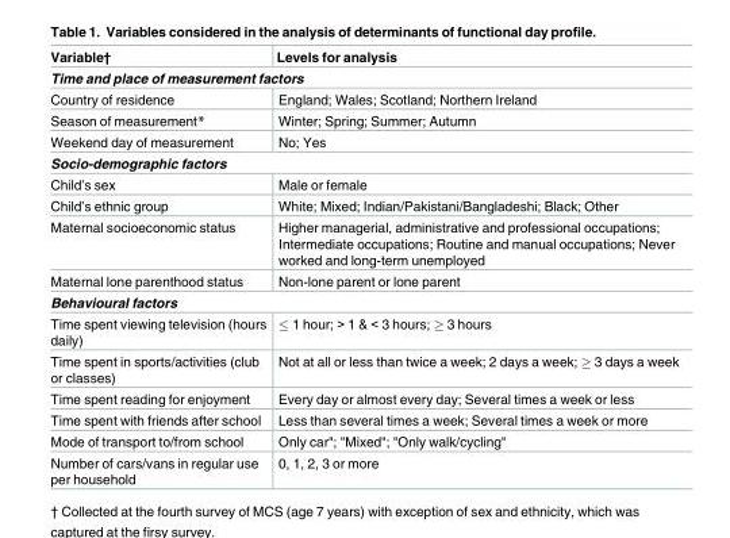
<table><thead><tr><td>Variable†</td><td>Levels for analysis</td></tr></thead><tbody><tr><td colspan="2">Time and place of measurement factors</td></tr><tr><td>Country of residence</td><td>England; Wales; Scotland; Northern Ireland</td></tr><tr><td>Season of measurement*</td><td>Winter; Spring; Summer; Autumn</td></tr><tr><td>Weekend day of measurement</td><td>No; Yes</td></tr><tr><td colspan="2">Socio-demographic factors</td></tr><tr><td>Child’s sex</td><td>Male or female</td></tr><tr><td>Child’s ethnic group</td><td>White; Mixed; Indian/Pakistani/Bangladeshi; Black; Other</td></tr><tr><td>Maternal socioeconomic status</td><td>Higher managerial, administrative and professional occupations; Intermediate occupations; Routine and manual occupations; Never worked and long-term unemployed</td></tr><tr><td>Maternal lone parenthood status</td><td>Non-lone parent or lone parent</td></tr><tr><td colspan="2">Behavioural factors</td></tr><tr><td>Time spent viewing television (hours daily)</td><td>≤ 1 hour; &gt; 1 &amp; &lt; 3 hours; ≥ 3 hours</td></tr><tr><td>Time spent in sports/activities (club or classes)</td><td>Not at all or less than twice a week; 2 days a week; ≥ 3 days a week</td></tr><tr><td>Time spent reading for enjoyment</td><td>Every day or almost every day; Several times a week or less</td></tr><tr><td>Time spent with friends after school</td><td>Less than several times a week; Several times a week or more</td></tr><tr><td>Mode of transport to/from school</td><td>Only car&quot;; &quot;Mixed&quot;; &quot;Only walk/cycling&quot;</td></tr><tr><td>Number of cars/vans in regular use per household</td><td>0, 1, 2, 3 or more</td></tr></tbody></table>